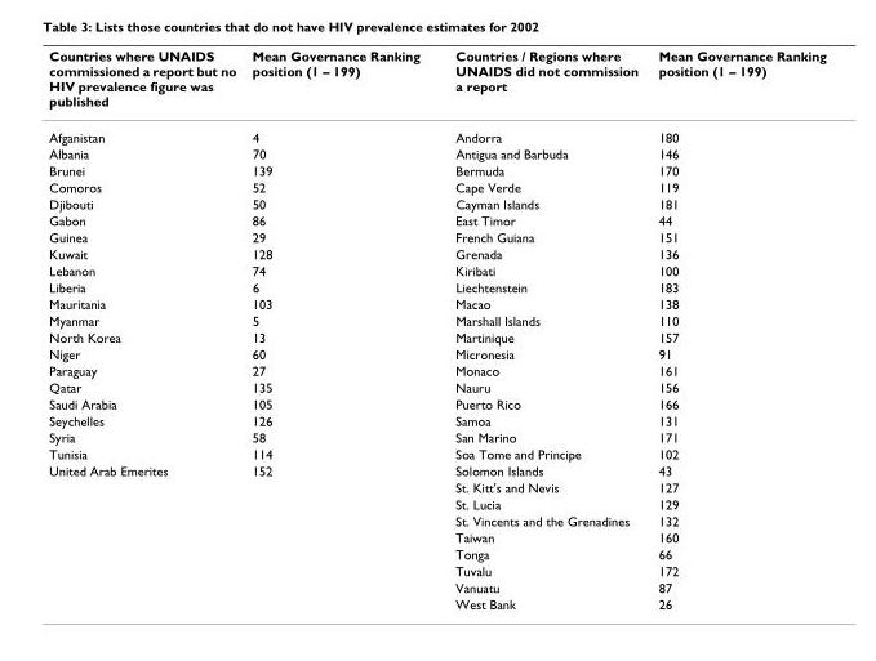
<table><thead><tr><td>Countries where UNAIDS commissioned a report but no HIV prevalence figure was published</td><td>Mean Governance Ranking position (1 – 199)</td><td>Countries / Regions where UNAIDS did not commission a report</td><td>Mean Governance Ranking position (1 – 199)</td></tr></thead><tbody><tr><td>Afganistan</td><td>4</td><td>Andorra</td><td>180</td></tr><tr><td>Albania</td><td>70</td><td>Antigua and Barbuda</td><td>146</td></tr><tr><td>Brunei</td><td>139</td><td>Bermuda</td><td>170</td></tr><tr><td>Comoros</td><td>52</td><td>Cape Verde</td><td>119</td></tr><tr><td>Djibouti</td><td>50</td><td>Cayman Islands</td><td>181</td></tr><tr><td>Gabon</td><td>86</td><td>East Timor</td><td>44</td></tr><tr><td>Guinea</td><td>29</td><td>French Guiana</td><td>151</td></tr><tr><td>Kuwait</td><td>128</td><td>Grenada</td><td>136</td></tr><tr><td>Lebanon</td><td>74</td><td>Kiribati</td><td>100</td></tr><tr><td>Liberia</td><td>6</td><td>Liechtenstein</td><td>183</td></tr><tr><td>Mauritania</td><td>103</td><td>Macao</td><td>138</td></tr><tr><td>Myanmar</td><td>5</td><td>Marshall Islands</td><td>110</td></tr><tr><td>North Korea</td><td>13</td><td>Martinique</td><td>157</td></tr><tr><td>Niger</td><td>60</td><td>Micronesia</td><td>91</td></tr><tr><td>Paraguay</td><td>27</td><td>Monaco</td><td>161</td></tr><tr><td>Qatar</td><td>135</td><td>Nauru</td><td>156</td></tr><tr><td>Saudi Arabia</td><td>105</td><td>Puerto Rico</td><td>166</td></tr><tr><td>Seychelles</td><td>126</td><td>Samoa</td><td>131</td></tr><tr><td>Syria</td><td>58</td><td>San Marino</td><td>171</td></tr><tr><td>Tunisia</td><td>114</td><td>Soa Tome and Principe</td><td>102</td></tr><tr><td rowspan="9">United Arab Emerites</td><td>152</td><td>Solomon Islands</td><td>43</td></tr><tr><td></td><td>St. Kitt&#x27;s and Nevis</td><td>127</td></tr><tr><td></td><td>St. Lucia</td><td>129</td></tr><tr><td></td><td>St. Vincents and the Grenadines</td><td>132</td></tr><tr><td></td><td>Taiwan</td><td>160</td></tr><tr><td></td><td>Tonga</td><td>66</td></tr><tr><td></td><td>Tuvalu</td><td>172</td></tr><tr><td></td><td>Vanuatu</td><td>87</td></tr><tr><td></td><td>West Bank</td><td>26</td></tr></tbody></table>